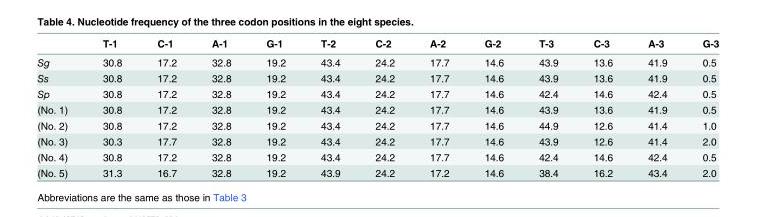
<table><thead><tr><td></td><td>T-1</td><td>C-1</td><td>A-1</td><td>G-1</td><td>T-2</td><td>C-2</td><td>A-2</td><td>G-2</td><td>T-3</td><td>C-3</td><td>A-3</td><td>G-3</td></tr></thead><tbody><tr><td>Sg</td><td>30.8</td><td>17.2</td><td>32.8</td><td>19.2</td><td>43.4</td><td>24.2</td><td>17.7</td><td>14.6</td><td>43.9</td><td>13.6</td><td>41.9</td><td>0.5</td></tr><tr><td>Ss</td><td>30.8</td><td>17.2</td><td>32.8</td><td>19.2</td><td>43.4</td><td>24.2</td><td>17.7</td><td>14.6</td><td>43.9</td><td>13.6</td><td>41.9</td><td>0.5</td></tr><tr><td>Sp</td><td>30.8</td><td>17.2</td><td>32.8</td><td>19.2</td><td>43.4</td><td>24.2</td><td>17.7</td><td>14.6</td><td>42.4</td><td>14.6</td><td>42.4</td><td>0.5</td></tr><tr><td>(No. 1)</td><td>30.8</td><td>17.2</td><td>32.8</td><td>19.2</td><td>43.4</td><td>24.2</td><td>17.7</td><td>14.6</td><td>43.9</td><td>13.6</td><td>41.9</td><td>0.5</td></tr><tr><td>(No. 2)</td><td>30.8</td><td>17.2</td><td>32.8</td><td>19.2</td><td>43.4</td><td>24.2</td><td>17.7</td><td>14.6</td><td>44.9</td><td>12.6</td><td>41.4</td><td>1.0</td></tr><tr><td>(No. 3)</td><td>30.3</td><td>17.7</td><td>32.8</td><td>19.2</td><td>43.4</td><td>24.2</td><td>17.7</td><td>14.6</td><td>43.9</td><td>12.6</td><td>41.4</td><td>2.0</td></tr><tr><td>(No. 4)</td><td>30.8</td><td>17.2</td><td>32.8</td><td>19.2</td><td>43.4</td><td>24.2</td><td>17.7</td><td>14.6</td><td>42.4</td><td>14.6</td><td>42.4</td><td>0.5</td></tr><tr><td>(No. 5)</td><td>31.3</td><td>16.7</td><td>32.8</td><td>19.2</td><td>43.9</td><td>24.2</td><td>17.2</td><td>14.6</td><td>38.4</td><td>16.2</td><td>43.4</td><td>2.0</td></tr></tbody></table>